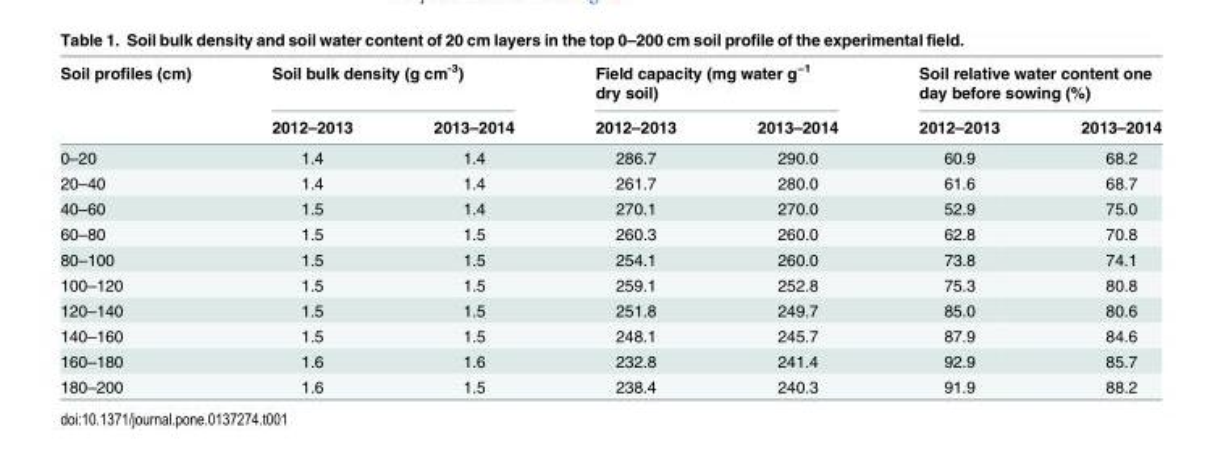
<table><thead><tr><td rowspan="2">Soil profiles (cm)</td><td colspan="2">Soil bulk density (g cm<sup>-3</sup>)</td><td colspan="2">Field capacity (mg water g<sup>−1</sup> dry soil)</td><td colspan="2">Soil relative water content one day before sowing (%)</td></tr><tr><td>2012–2013</td><td>2013–2014</td><td>2012–2013</td><td>2013–2014</td><td>2012–2013</td><td>2013–2014</td></tr></thead><tbody><tr><td>0–20</td><td>1.4</td><td>1.4</td><td>286.7</td><td>290.0</td><td>60.9</td><td>68.2</td></tr><tr><td>20–40</td><td>1.4</td><td>1.4</td><td>261.7</td><td>280.0</td><td>61.6</td><td>68.7</td></tr><tr><td>40–60</td><td>1.5</td><td>1.4</td><td>270.1</td><td>270.0</td><td>52.9</td><td>75.0</td></tr><tr><td>60–80</td><td>1.5</td><td>1.5</td><td>260.3</td><td>260.0</td><td>62.8</td><td>70.8</td></tr><tr><td>80–100</td><td>1.5</td><td>1.5</td><td>254.1</td><td>260.0</td><td>73.8</td><td>74.1</td></tr><tr><td>100–120</td><td>1.5</td><td>1.5</td><td>259.1</td><td>252.8</td><td>75.3</td><td>80.8</td></tr><tr><td>120–140</td><td>1.5</td><td>1.5</td><td>251.8</td><td>249.7</td><td>85.0</td><td>80.6</td></tr><tr><td>140–160</td><td>1.5</td><td>1.5</td><td>248.1</td><td>245.7</td><td>87.9</td><td>84.6</td></tr><tr><td>160–180</td><td>1.6</td><td>1.6</td><td>232.8</td><td>241.4</td><td>92.9</td><td>85.7</td></tr><tr><td>180–200</td><td>1.6</td><td>1.5</td><td>238.4</td><td>240.3</td><td>91.9</td><td>88.2</td></tr></tbody></table>